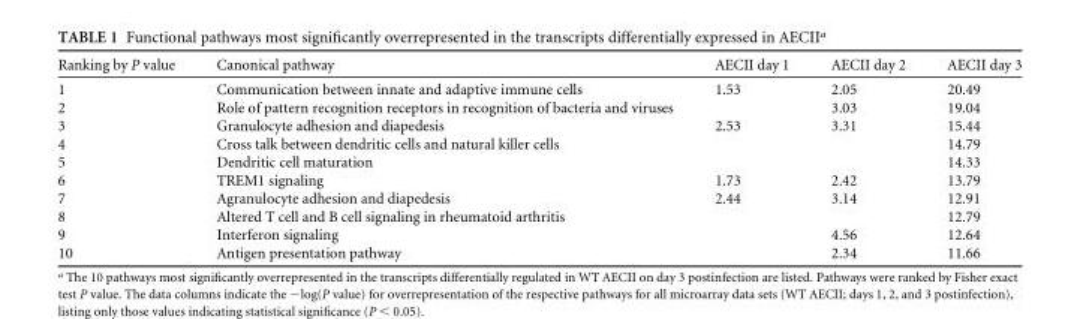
<table><thead><tr><td>Ranking by P value</td><td>Canonical pathway</td><td>AECII day 1</td><td>AECII day 2</td><td>AECII day 3</td></tr></thead><tbody><tr><td>1</td><td>Communication between innate and adaptive immune cells</td><td>1.53</td><td>2.05</td><td>20.49</td></tr><tr><td>2</td><td>Role of pattern recognition receptors in recognition of bacteria and viruses</td><td></td><td>3.03</td><td>19.04</td></tr><tr><td>3</td><td>Granulocyte adhesion and diapedesis</td><td>2.53</td><td>3.31</td><td>15.44</td></tr><tr><td>4</td><td>Cross talk between dendritic cells and natural killer cells</td><td></td><td></td><td>14.79</td></tr><tr><td>5</td><td>Dendritic cell maturation</td><td></td><td></td><td>14.33</td></tr><tr><td>6</td><td>TREM1 signaling</td><td>1.73</td><td>2.42</td><td>13.79</td></tr><tr><td>7</td><td>Agranulocyte adhesion and diapedesis</td><td>2.44</td><td>3.14</td><td>12.91</td></tr><tr><td>8</td><td>Altered T cell and B cell signaling in rheumatoid arthritis</td><td></td><td></td><td>12.79</td></tr><tr><td>9</td><td>Interferon signaling</td><td></td><td>4.56</td><td>12.64</td></tr><tr><td>10</td><td>Antigen presentation pathway</td><td></td><td>2.34</td><td>11.66</td></tr></tbody></table>